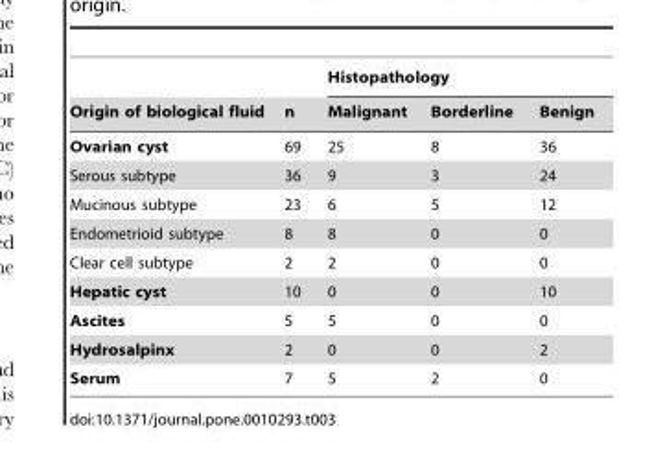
<table><thead><tr><td rowspan="2">Origin of biological fluid</td><td rowspan="2">n</td><td colspan="3">Histopathology</td></tr><tr><td>Malignant</td><td>Borderline</td><td>Benign</td></tr></thead><tbody><tr><td>Ovarian cyst</td><td>69</td><td>25</td><td>8</td><td>36</td></tr><tr><td>Serous subtype</td><td>36</td><td>9</td><td>3</td><td>24</td></tr><tr><td>Mucinous subtype</td><td>23</td><td>6</td><td>5</td><td>12</td></tr><tr><td>Endometrioid subtype</td><td>8</td><td>8</td><td>0</td><td>0</td></tr><tr><td>Clear cell subtype</td><td>2</td><td>2</td><td>0</td><td>0</td></tr><tr><td>Hepatic cyst</td><td>10</td><td>0</td><td>0</td><td>10</td></tr><tr><td>Ascites</td><td>5</td><td>5</td><td>0</td><td>0</td></tr><tr><td>Hydrosalpinx</td><td>2</td><td>0</td><td>0</td><td>2</td></tr><tr><td>Serum</td><td>7</td><td>5</td><td>2</td><td>0</td></tr></tbody></table>